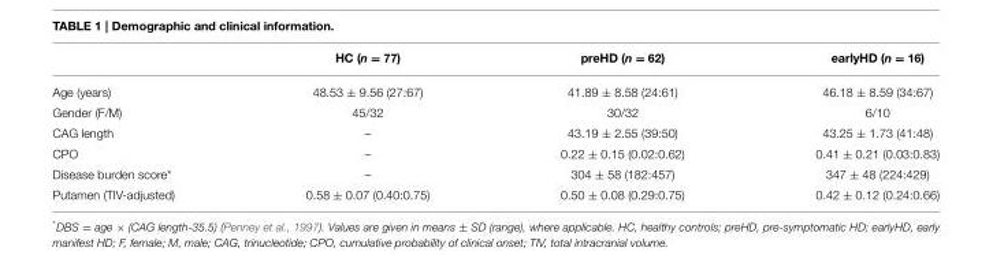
<table><thead><tr><td></td><td>HC (n = 77)</td><td>preHD (n = 62)</td><td>earlyHD (n = 16)</td></tr></thead><tbody><tr><td>Age (years)</td><td>48.53 ± 9.56 (27:67)</td><td>41.89 ± 8.58 (24:61)</td><td>46.18 ± 8.59 (34:67)</td></tr><tr><td>Gender (F/M)</td><td>45/32</td><td>30/32</td><td>6/10</td></tr><tr><td>CAG length</td><td>–</td><td>43.19 ± 2.55 (39:50)</td><td>43.25 ± 1.73 (41:48)</td></tr><tr><td>CPO</td><td>–</td><td>0.22 ± 0.15 (0.02:0.62)</td><td>0.41 ± 0.21 (0.03:0.83)</td></tr><tr><td>Disease burden score*</td><td>–</td><td>304 ± 58 (182:457)</td><td>347 ± 48 (224:429)</td></tr><tr><td>Putamen (TIV-adjusted)</td><td>0.58 ± 0.07 (0.40:0.75)</td><td>0.50 ± 0.08 (0.29:0.75)</td><td>0.42 ± 0.12 (0.24:0.66)</td></tr></tbody></table>